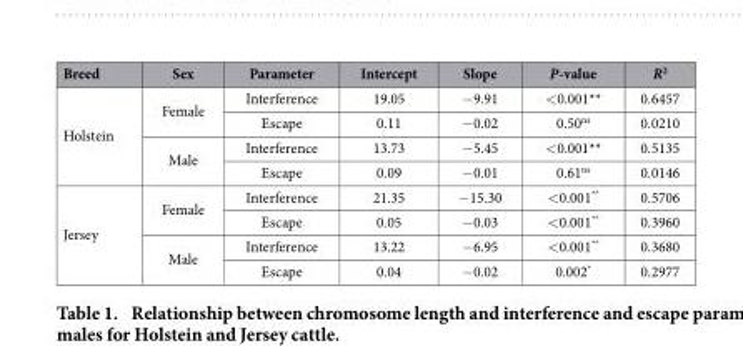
<table><thead><tr><td>Breed</td><td>Sex</td><td>Parameter</td><td>Intercept</td><td>Slope</td><td>P-value</td><td>R<sup>2</sup></td></tr></thead><tbody><tr><td rowspan="4">Holstein</td><td rowspan="2">Female</td><td>Interference</td><td>19.05</td><td>− 9.91</td><td>&lt; 0.001**</td><td>0.6457</td></tr><tr><td>Escape</td><td>0.11</td><td>− 0.02</td><td>0.50<sup>ns</sup></td><td>0.0210</td></tr><tr><td rowspan="2">Male</td><td>Interference</td><td>13.73</td><td>− 5.45</td><td>&lt; 0.001**</td><td>0.5135</td></tr><tr><td>Escape</td><td>0.09</td><td>− 0.01</td><td>0.61<sup>ns</sup></td><td>0.0146</td></tr><tr><td rowspan="4">Jersey</td><td rowspan="2">Female</td><td>Interference</td><td>21.35</td><td>− 15.30</td><td>&lt; 0.001**</td><td>0.5706</td></tr><tr><td>Escape</td><td>0.05</td><td>− 0.03</td><td>&lt; 0.001**</td><td>0.3960</td></tr><tr><td rowspan="2">Male</td><td>Interference</td><td>13.22</td><td>− 6.95</td><td>&lt; 0.001**</td><td>0.3680</td></tr><tr><td>Escape</td><td>0.04</td><td>− 0.02</td><td>0.002*</td><td>0.2977</td></tr></tbody></table>